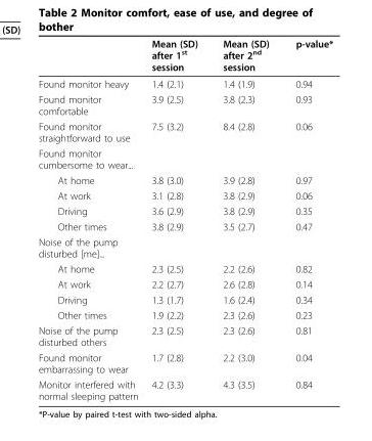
<table><thead><tr><td></td><td>Mean (SD) after 1<sup>st</sup> session</td><td>Mean (SD) after 2<sup>nd</sup> session</td><td>p-value*</td></tr></thead><tbody><tr><td>Found monitor heavy</td><td>1.4 (2.1)</td><td>1.4 (1.9)</td><td>0.94</td></tr><tr><td>Found monitor comfortable</td><td>3.9 (2.5)</td><td>3.8 (2.3)</td><td>0.93</td></tr><tr><td>Found monitor straightforward to use</td><td>7.5 (3.2)</td><td>8.4 (2.8)</td><td>0.06</td></tr><tr><td colspan="4">Found monitor cumbersome to wear...</td></tr><tr><td>At home</td><td>3.8 (3.0)</td><td>3.9 (2.8)</td><td>0.97</td></tr><tr><td>At work</td><td>3.1 (2.8)</td><td>3.8 (2.9)</td><td>0.06</td></tr><tr><td>Driving</td><td>3.6 (2.9)</td><td>3.8 (2.9)</td><td>0.35</td></tr><tr><td>Other times</td><td>3.8 (2.9)</td><td>3.5 (2.7)</td><td>0.47</td></tr><tr><td colspan="4">Noise of the pump disturbed [me]...</td></tr><tr><td>At home</td><td>2.3 (2.5)</td><td>2.2 (2.6)</td><td>0.82</td></tr><tr><td>At work</td><td>2.2 (2.7)</td><td>2.6 (2.8)</td><td>0.14</td></tr><tr><td>Driving</td><td>1.3 (1.7)</td><td>1.6 (2.4)</td><td>0.34</td></tr><tr><td>Other times</td><td>1.9 (2.2)</td><td>2.3 (2.6)</td><td>0.23</td></tr><tr><td>Noise of the pump disturbed others</td><td>2.3 (2.5)</td><td>2.3 (2.6)</td><td>0.81</td></tr><tr><td>Found monitor embarrassing to wear</td><td>1.7 (2.8)</td><td>2.2 (3.0)</td><td>0.04</td></tr><tr><td>Monitor interfered with normal sleeping pattern</td><td>4.2 (3.3)</td><td>4.3 (3.5)</td><td>0.84</td></tr></tbody></table>